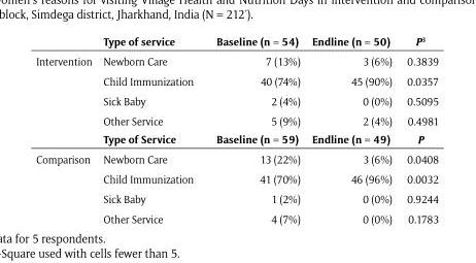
<table><thead><tr><td></td><td>Type of service</td><td>Baseline (n = 54)</td><td>Endline (n = 50)</td><td>P<sup>3</sup></td></tr></thead><tbody><tr><td rowspan="5">Intervention</td><td>Newborn Care</td><td>7 (13%)</td><td>3 (6%)</td><td>0.3839</td></tr><tr><td>Child Immunization</td><td>40 (74%)</td><td>45 (90%)</td><td>0.0357</td></tr><tr><td>Sick Baby</td><td>2 (4%)</td><td>0 (0%)</td><td>0.5095</td></tr><tr><td>Other Service</td><td>5 (9%)</td><td>2 (4%)</td><td>0.4981</td></tr><tr><td>Type of Service</td><td>Baseline (n = 59)</td><td>Endline (n = 49)</td><td>P</td></tr><tr><td rowspan="4">Comparison</td><td>Newborn Care</td><td>13 (22%)</td><td>3 (6%)</td><td>0.0408</td></tr><tr><td>Child Immunization</td><td>41 (70%)</td><td>46 (96%)</td><td>0.0032</td></tr><tr><td>Sick Baby</td><td>1 (2%)</td><td>0 (0%)</td><td>0.9244</td></tr><tr><td>Other Service</td><td>4 (7%)</td><td>0 (0%)</td><td>0.1783</td></tr></tbody></table>